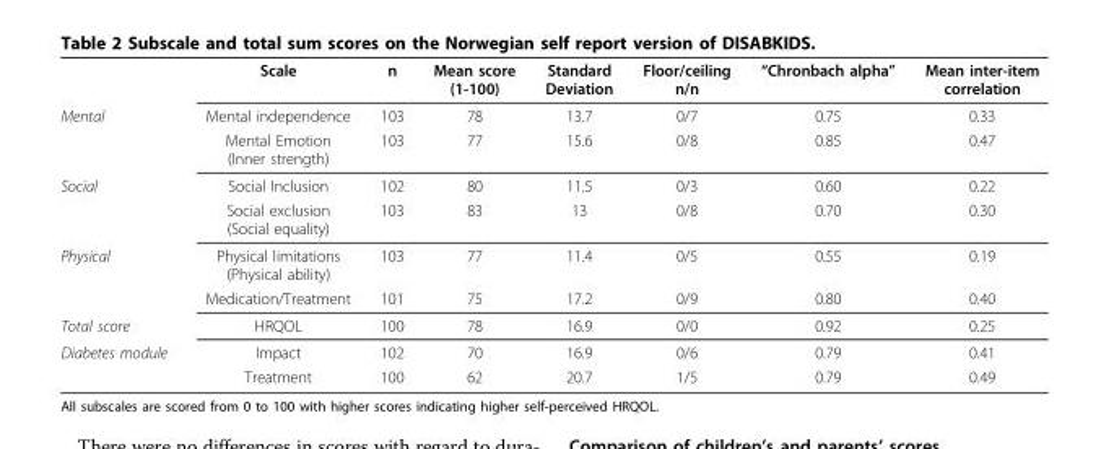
<table><thead><tr><td></td><td>Scale</td><td>n</td><td>Mean score (1-100)</td><td>Standard Deviation</td><td>Floor/ceiling n/n</td><td>“Chronbach alpha”</td><td>Mean inter-item correlation</td></tr></thead><tbody><tr><td rowspan="2">Mental</td><td>Mental independence</td><td>103</td><td>78</td><td>13.7</td><td>0/7</td><td>0.75</td><td>0.33</td></tr><tr><td>Mental Emotion (Inner strength)</td><td>103</td><td>77</td><td>15.6</td><td>0/8</td><td>0.85</td><td>0.47</td></tr><tr><td rowspan="2">Social</td><td>Social Inclusion</td><td>102</td><td>80</td><td>11.5</td><td>0/3</td><td>0.60</td><td>0.22</td></tr><tr><td>Social exclusion (Social equality)</td><td>103</td><td>83</td><td>13</td><td>0/8</td><td>0.70</td><td>0.30</td></tr><tr><td rowspan="2">Physical</td><td>Physical limitations (Physical ability)</td><td>103</td><td>77</td><td>11.4</td><td>0/5</td><td>0.55</td><td>0.19</td></tr><tr><td>Medication/Treatment</td><td>101</td><td>75</td><td>17.2</td><td>0/9</td><td>0.80</td><td>0.40</td></tr><tr><td>Total score</td><td>HRQOL</td><td>100</td><td>78</td><td>16.9</td><td>0/0</td><td>0.92</td><td>0.25</td></tr><tr><td rowspan="2">Diabetes module</td><td>Impact</td><td>102</td><td>70</td><td>16.9</td><td>0/6</td><td>0.79</td><td>0.41</td></tr><tr><td>Treatment</td><td>100</td><td>62</td><td>20.7</td><td>1/5</td><td>0.79</td><td>0.49</td></tr></tbody></table>